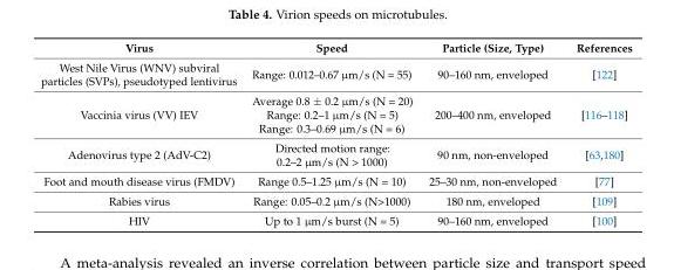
<table><thead><tr><td>Virus</td><td>Speed</td><td>Particle (Size, Type)</td><td>References</td></tr></thead><tbody><tr><td>West Nile Virus (WNV) subviral particles (SVPs), pseudotyped lentivirus</td><td>Range: 0.012–0.67 µm/s (N = 55)</td><td>90–160 nm, enveloped</td><td>[122]</td></tr><tr><td>Vaccinia virus (VV) IEV</td><td>Average 0.8 ± 0.2 µm/s (N = 20) Range: 0.2–1 µm/s (N = 5) Range: 0.3–0.69 µm/s (N = 6)</td><td>200–400 nm, enveloped</td><td>[116–118]</td></tr><tr><td>Adenovirus type 2 (AdV-C2)</td><td>Directed motion range: 0.2–2 µm/s (N &gt; 1000)</td><td>90 nm, non-enveloped</td><td>[63,180]</td></tr><tr><td>Foot and mouth disease virus (FMDV)</td><td>Range 0.5–1.25 µm/s (N = 10)</td><td>25–30 nm, non-enveloped</td><td>[77]</td></tr><tr><td>Rabies virus</td><td>Range: 0.05–0.2 µm/s (N&gt;1000)</td><td>180 nm, enveloped</td><td>[109]</td></tr><tr><td>HIV</td><td>Up to 1 µm/s burst (N = 5)</td><td>90–160 nm, enveloped</td><td>[100]</td></tr></tbody></table>